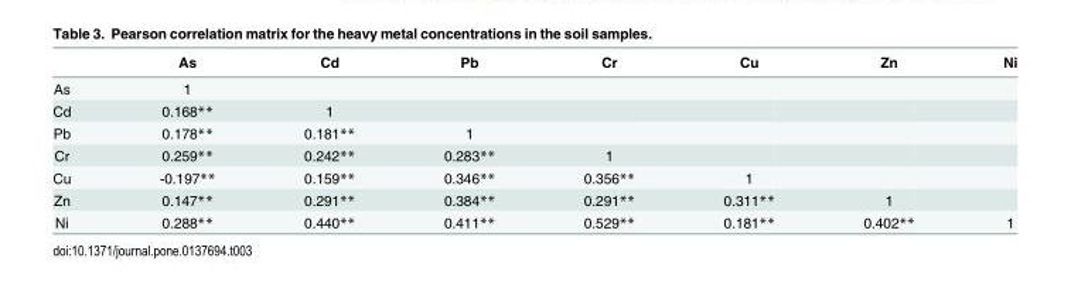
<table><thead><tr><td></td><td>As</td><td>Cd</td><td>Pb</td><td>Cr</td><td>Cu</td><td>Zn</td><td>Ni</td></tr></thead><tbody><tr><td>As</td><td>1</td><td></td><td></td><td></td><td></td><td></td><td></td></tr><tr><td>Cd</td><td>0.168**</td><td>1</td><td></td><td></td><td></td><td></td><td></td></tr><tr><td>Pb</td><td>0.178**</td><td>0.181**</td><td>1</td><td></td><td></td><td></td><td></td></tr><tr><td>Cr</td><td>0.259**</td><td>0.242**</td><td>0.283**</td><td>1</td><td></td><td></td><td></td></tr><tr><td>Cu</td><td>-0.197**</td><td>0.159**</td><td>0.346**</td><td>0.356**</td><td>1</td><td></td><td></td></tr><tr><td>Zn</td><td>0.147**</td><td>0.291**</td><td>0.384**</td><td>0.291**</td><td>0.311**</td><td>1</td><td></td></tr><tr><td>Ni</td><td>0.288**</td><td>0.440**</td><td>0.411**</td><td>0.529**</td><td>0.181**</td><td>0.402**</td><td>1</td></tr></tbody></table>